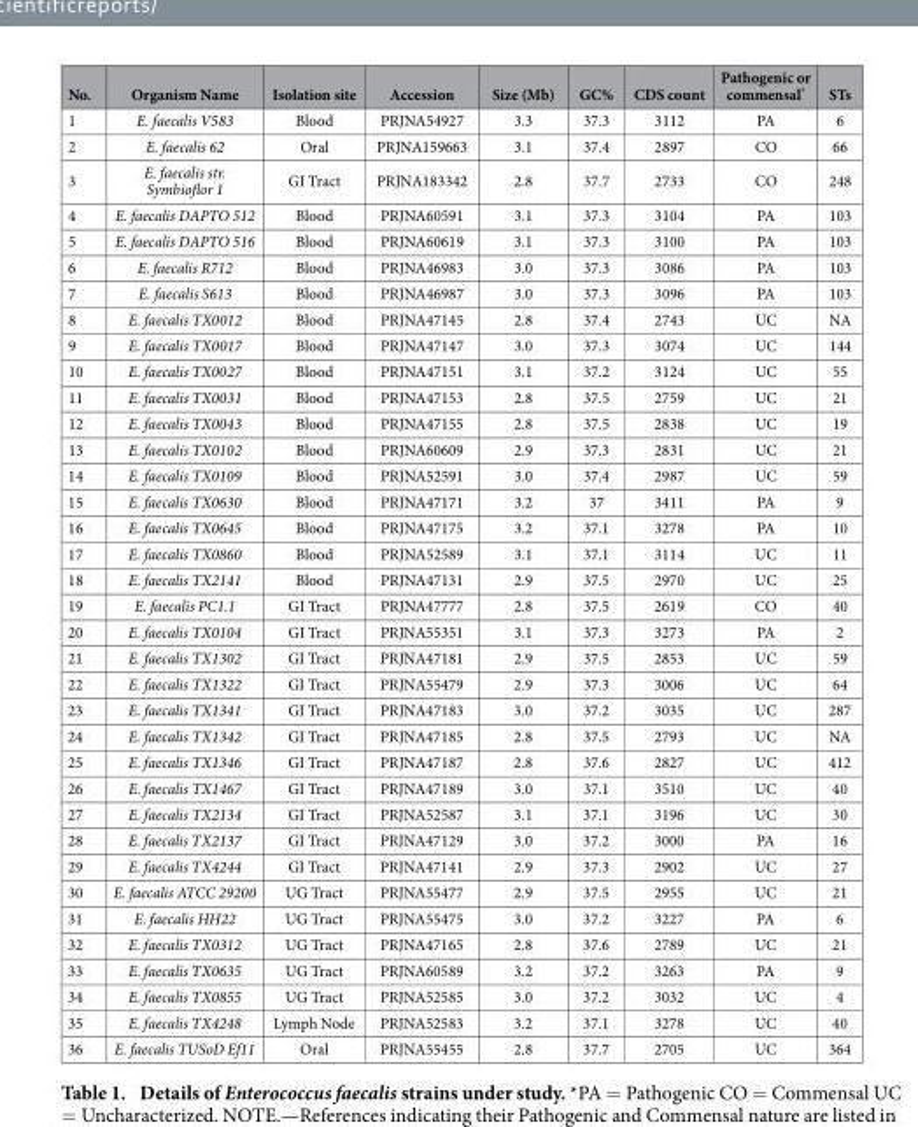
<table><thead><tr><td>No.</td><td>Organism Name</td><td>Isolation site</td><td>Accession</td><td>Size (Mb)</td><td>GC%</td><td>CDS count</td><td>Pathogenic or commensal*</td><td>STs</td></tr></thead><tbody><tr><td>1</td><td>E. faecalis V583</td><td>Blood</td><td>PRJNA54927</td><td>3.3</td><td>37.3</td><td>3112</td><td>PA</td><td>6</td></tr><tr><td>2</td><td>E. faecalis 62</td><td>Oral</td><td>PRJNA159663</td><td>3.1</td><td>37.4</td><td>2897</td><td>CO</td><td>66</td></tr><tr><td>3</td><td>E. faecalis str. Symbioflor 1</td><td>GI Tract</td><td>PRJNA183342</td><td>2.8</td><td>37.7</td><td>2733</td><td>CO</td><td>248</td></tr><tr><td>4</td><td>E. faecalis DAPTO 512</td><td>Blood</td><td>PRJNA60591</td><td>3.1</td><td>37.3</td><td>3104</td><td>PA</td><td>103</td></tr><tr><td>5</td><td>E. faecalis DAPTO 516</td><td>Blood</td><td>PRJNA60619</td><td>3.1</td><td>37.3</td><td>3100</td><td>PA</td><td>103</td></tr><tr><td>6</td><td>E. faecalis R712</td><td>Blood</td><td>PRJNA46983</td><td>3.0</td><td>37.3</td><td>3086</td><td>PA</td><td>103</td></tr><tr><td>7</td><td>E. faecalis S613</td><td>Blood</td><td>PRJNA46987</td><td>3.0</td><td>37.3</td><td>3096</td><td>PA</td><td>103</td></tr><tr><td>8</td><td>E. faecalis TX0012</td><td>Blood</td><td>PRJNA47145</td><td>2.8</td><td>37.4</td><td>2743</td><td>UC</td><td>NA</td></tr><tr><td>9</td><td>E. faecalis TX0017</td><td>Blood</td><td>PRJNA47147</td><td>3.0</td><td>37.3</td><td>3074</td><td>UC</td><td>144</td></tr><tr><td>10</td><td>E. faecalis TX0027</td><td>Blood</td><td>PRJNA47151</td><td>3.1</td><td>37.2</td><td>3124</td><td>UC</td><td>55</td></tr><tr><td>11</td><td>E. faecalis TX0031</td><td>Blood</td><td>PRJNA47153</td><td>2.8</td><td>37.5</td><td>2759</td><td>UC</td><td>21</td></tr><tr><td>12</td><td>E. faecalis TX0043</td><td>Blood</td><td>PRJNA47155</td><td>2.8</td><td>37.5</td><td>2838</td><td>UC</td><td>19</td></tr><tr><td>13</td><td>E. faecalis TX0102</td><td>Blood</td><td>PRJNA60609</td><td>2.9</td><td>37.3</td><td>2831</td><td>UC</td><td>21</td></tr><tr><td>14</td><td>E. faecalis TX0109</td><td>Blood</td><td>PRJNA52591</td><td>3.0</td><td>37.4</td><td>2987</td><td>UC</td><td>59</td></tr><tr><td>15</td><td>E. faecalis TX0630</td><td>Blood</td><td>PRJNA47171</td><td>3.2</td><td>37</td><td>3411</td><td>PA</td><td>9</td></tr><tr><td>16</td><td>E. faecalis TX0645</td><td>Blood</td><td>PRJNA47175</td><td>3.2</td><td>37.1</td><td>3278</td><td>PA</td><td>10</td></tr><tr><td>17</td><td>E. faecalis TX0860</td><td>Blood</td><td>PRJNA52589</td><td>3.1</td><td>37.1</td><td>3114</td><td>UC</td><td>11</td></tr><tr><td>18</td><td>E. faecalis TX2141</td><td>Blood</td><td>PRJNA47131</td><td>2.9</td><td>37.5</td><td>2970</td><td>UC</td><td>25</td></tr><tr><td>19</td><td>E. faecalis PC1.1</td><td>GI Tract</td><td>PRJNA47777</td><td>2.8</td><td>37.5</td><td>2619</td><td>CO</td><td>40</td></tr><tr><td>20</td><td>E. faecalis TX0104</td><td>GI Tract</td><td>PRJNA55351</td><td>3.1</td><td>37.3</td><td>3273</td><td>PA</td><td>2</td></tr><tr><td>21</td><td>E. faecalis TX1302</td><td>GI Tract</td><td>PRJNA47181</td><td>2.9</td><td>37.5</td><td>2853</td><td>UC</td><td>59</td></tr><tr><td>22</td><td>E. faecalis TX1322</td><td>GI Tract</td><td>PRJNA55479</td><td>2.9</td><td>37.3</td><td>3006</td><td>UC</td><td>64</td></tr><tr><td>23</td><td>E. faecalis TX1341</td><td>GI Tract</td><td>PRJNA47183</td><td>3.0</td><td>37.2</td><td>3035</td><td>UC</td><td>287</td></tr><tr><td>24</td><td>E. faecalis TX1342</td><td>GI Tract</td><td>PRJNA47185</td><td>2.8</td><td>37.5</td><td>2793</td><td>UC</td><td>NA</td></tr><tr><td>25</td><td>E. faecalis TX1346</td><td>GI Tract</td><td>PRJNA47187</td><td>2.8</td><td>37.6</td><td>2827</td><td>UC</td><td>412</td></tr><tr><td>26</td><td>E. faecalis TX1467</td><td>GI Tract</td><td>PRJNA47189</td><td>3.0</td><td>37.1</td><td>3510</td><td>UC</td><td>40</td></tr><tr><td>27</td><td>E. faecalis TX2134</td><td>GI Tract</td><td>PRJNA52587</td><td>3.1</td><td>37.1</td><td>3196</td><td>UC</td><td>30</td></tr><tr><td>28</td><td>E. faecalis TX2137</td><td>GI Tract</td><td>PRJNA47129</td><td>3.0</td><td>37.2</td><td>3000</td><td>PA</td><td>16</td></tr><tr><td>29</td><td>E. faecalis TX4244</td><td>GI Tract</td><td>PRJNA47141</td><td>2.9</td><td>37.3</td><td>2902</td><td>UC</td><td>27</td></tr><tr><td>30</td><td>E. faecalis ATCC 29200</td><td>UG Tract</td><td>PRJNA55477</td><td>2.9</td><td>37.5</td><td>2955</td><td>UC</td><td>21</td></tr><tr><td>31</td><td>E. faecalis HH22</td><td>UG Tract</td><td>PRJNA55475</td><td>3.0</td><td>37.2</td><td>3227</td><td>PA</td><td>6</td></tr><tr><td>32</td><td>E. faecalis TX0312</td><td>UG Tract</td><td>PRJNA47165</td><td>2.8</td><td>37.6</td><td>2789</td><td>UC</td><td>21</td></tr><tr><td>33</td><td>E. faecalis TX0635</td><td>UG Tract</td><td>PRJNA60589</td><td>3.2</td><td>37.2</td><td>3263</td><td>PA</td><td>9</td></tr><tr><td>34</td><td>E. faecalis TX0855</td><td>UG Tract</td><td>PRJNA52585</td><td>3.0</td><td>37.2</td><td>3032</td><td>UC</td><td>4</td></tr><tr><td>35</td><td>E. faecalis TX4248</td><td>Lymph Node</td><td>PRJNA52583</td><td>3.2</td><td>37.1</td><td>3278</td><td>UC</td><td>40</td></tr><tr><td>36</td><td>E. faecalis TUSoD Ef11</td><td>Oral</td><td>PRJNA55455</td><td>2.8</td><td>37.7</td><td>2705</td><td>UC</td><td>364</td></tr></tbody></table>